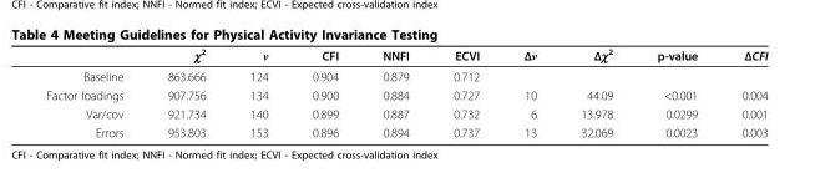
<table><thead><tr><td></td><td>χ<sup>2</sup></td><td>ν</td><td>CFI</td><td>NNFI</td><td>ECVI</td><td>Δν</td><td>Δχ<sup>2</sup></td><td>p-value</td><td>ΔCFI</td></tr></thead><tbody><tr><td>Baseline</td><td>863.666</td><td>124</td><td>0.904</td><td>0.879</td><td>0.712</td><td></td><td></td><td></td><td></td></tr><tr><td>Factor loadings</td><td>907.756</td><td>134</td><td>0.900</td><td>0.884</td><td>0.727</td><td>10</td><td>44.09</td><td>&lt;0.001</td><td>0.004</td></tr><tr><td>Var/cov</td><td>921.734</td><td>140</td><td>0.899</td><td>0.887</td><td>0.732</td><td>6</td><td>13.978</td><td>0.0299</td><td>0.001</td></tr><tr><td>Errors</td><td>953.803</td><td>153</td><td>0.896</td><td>0.894</td><td>0.737</td><td>13</td><td>32.069</td><td>0.0023</td><td>0.003</td></tr></tbody></table>